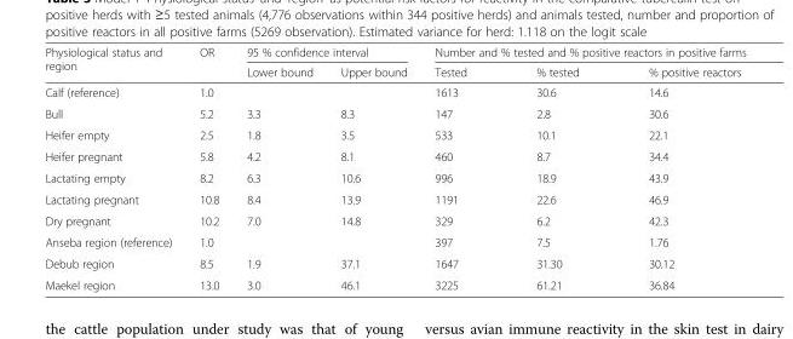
<table><thead><tr><td rowspan="2">Physiological status and region</td><td rowspan="2">OR</td><td colspan="2">95 % confidence interval</td><td colspan="3">Number and % tested and % positive reactors in positive farms</td></tr><tr><td>Lower bound</td><td>Upper bound</td><td>Tested</td><td>% tested</td><td>% positive reactors</td></tr></thead><tbody><tr><td>Calf (reference)</td><td>1.0</td><td></td><td></td><td>1613</td><td>30.6</td><td>14.6</td></tr><tr><td>Bull</td><td>5.2</td><td>3.3</td><td>8.3</td><td>147</td><td>2.8</td><td>30.6</td></tr><tr><td>Heifer empty</td><td>2.5</td><td>1.8</td><td>3.5</td><td>533</td><td>10.1</td><td>22.1</td></tr><tr><td>Heifer pregnant</td><td>5.8</td><td>4.2</td><td>8.1</td><td>460</td><td>8.7</td><td>34.4</td></tr><tr><td>Lactating empty</td><td>8.2</td><td>6.3</td><td>10.6</td><td>996</td><td>18.9</td><td>43.9</td></tr><tr><td>Lactating pregnant</td><td>10.8</td><td>8.4</td><td>13.9</td><td>1191</td><td>22.6</td><td>46.9</td></tr><tr><td>Dry pregnant</td><td>10.2</td><td>7.0</td><td>14.8</td><td>329</td><td>6.2</td><td>42.3</td></tr><tr><td>Anseba region (reference)</td><td>1.0</td><td></td><td></td><td>397</td><td>7.5</td><td>1.76</td></tr><tr><td>Debub region</td><td>8.5</td><td>1.9</td><td>37.1</td><td>1647</td><td>31.30</td><td>30.12</td></tr><tr><td>Maekel region</td><td>13.0</td><td>3.0</td><td>46.1</td><td>3225</td><td>61.21</td><td>36.84</td></tr></tbody></table>